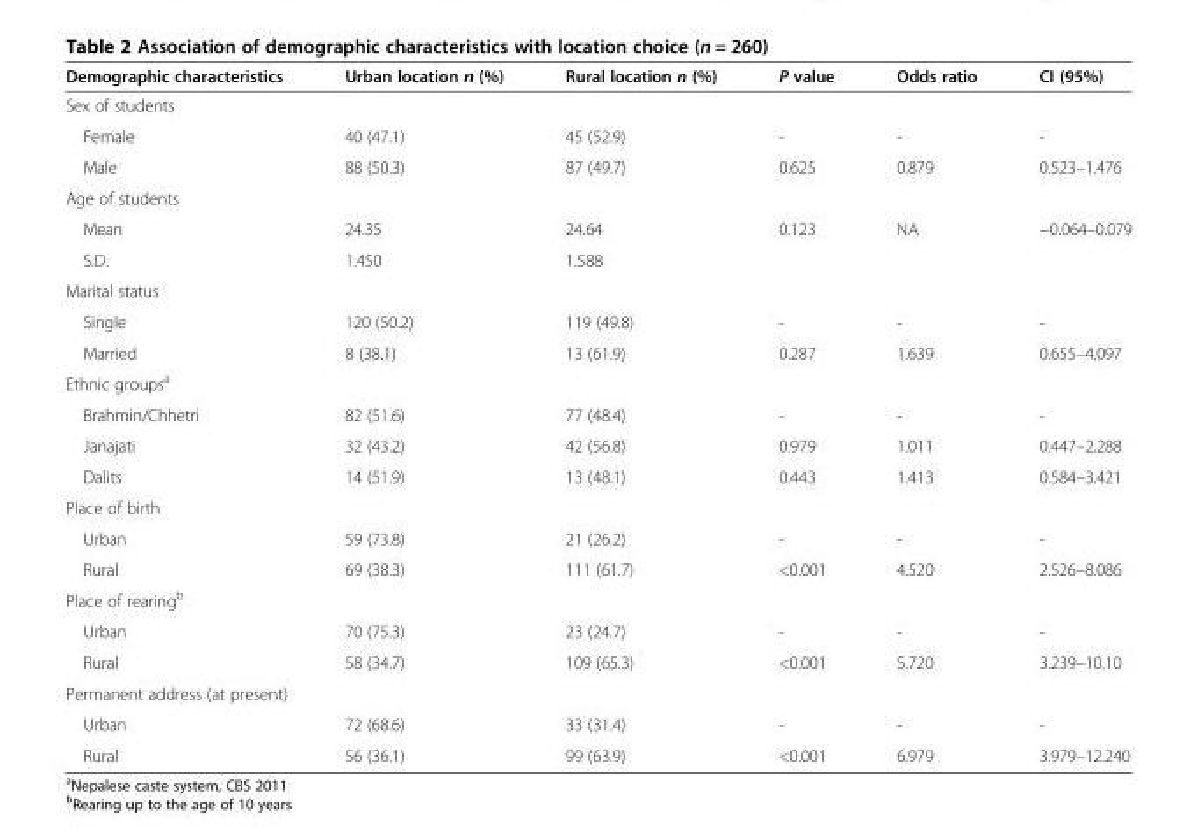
<table><thead><tr><td>Demographic characteristics</td><td>Urban location n (%)</td><td>Rural location n (%)</td><td>P value</td><td>Odds ratio</td><td>CI (95%)</td></tr></thead><tbody><tr><td colspan="6">Sex of students</td></tr><tr><td>Female</td><td>40 (47.1)</td><td>45 (52.9)</td><td>-</td><td>-</td><td>-</td></tr><tr><td>Male</td><td>88 (50.3)</td><td>87 (49.7)</td><td>0.625</td><td>0.879</td><td>0.523–1.476</td></tr><tr><td colspan="6">Age of students</td></tr><tr><td>Mean</td><td>24.35</td><td>24.64</td><td>0.123</td><td>NA</td><td>−0.064–0.079</td></tr><tr><td>S.D.</td><td>1.450</td><td>1.588</td><td></td><td></td><td></td></tr><tr><td colspan="6">Marital status</td></tr><tr><td>Single</td><td>120 (50.2)</td><td>119 (49.8)</td><td>-</td><td>-</td><td>-</td></tr><tr><td>Married</td><td>8 (38.1)</td><td>13 (61.9)</td><td>0.287</td><td>1.639</td><td>0.655–4.097</td></tr><tr><td colspan="6">Ethnic groups<sup>a</sup></td></tr><tr><td>Brahmin/Chhetri</td><td>82 (51.6)</td><td>77 (48.4)</td><td>-</td><td>-</td><td>-</td></tr><tr><td>Janajati</td><td>32 (43.2)</td><td>42 (56.8)</td><td>0.979</td><td>1.011</td><td>0.447–2.288</td></tr><tr><td>Dalits</td><td>14 (51.9)</td><td>13 (48.1)</td><td>0.443</td><td>1.413</td><td>0.584–3.421</td></tr><tr><td colspan="6">Place of birth</td></tr><tr><td>Urban</td><td>59 (73.8)</td><td>21 (26.2)</td><td>-</td><td>-</td><td>-</td></tr><tr><td>Rural</td><td>69 (38.3)</td><td>111 (61.7)</td><td>&lt;0.001</td><td>4.520</td><td>2.526–8.086</td></tr><tr><td colspan="6">Place of rearing<sup>b</sup></td></tr><tr><td>Urban</td><td>70 (75.3)</td><td>23 (24.7)</td><td>-</td><td>-</td><td>-</td></tr><tr><td>Rural</td><td>58 (34.7)</td><td>109 (65.3)</td><td>&lt;0.001</td><td>5.720</td><td>3.239–10.10</td></tr><tr><td colspan="6">Permanent address (at present)</td></tr><tr><td>Urban</td><td>72 (68.6)</td><td>33 (31.4)</td><td>-</td><td>-</td><td>-</td></tr><tr><td>Rural</td><td>56 (36.1)</td><td>99 (63.9)</td><td>&lt;0.001</td><td>6.979</td><td>3.979–12.240</td></tr></tbody></table>